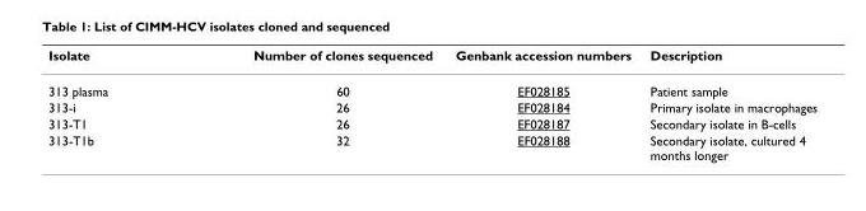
<table><thead><tr><td>Isolate</td><td>Number of clones sequenced</td><td>Genbank accession numbers</td><td>Description</td></tr></thead><tbody><tr><td>313 plasma</td><td>60</td><td>EF028185</td><td>Patient sample</td></tr><tr><td>313-i</td><td>26</td><td>EF028184</td><td>Primary isolate in macrophages</td></tr><tr><td>313-T1</td><td>26</td><td>EF028187</td><td>Secondary isolate in B-cells</td></tr><tr><td>313-T1b</td><td>32</td><td>EF028188</td><td>Secondary isolate, cultured 4 months longer</td></tr></tbody></table>